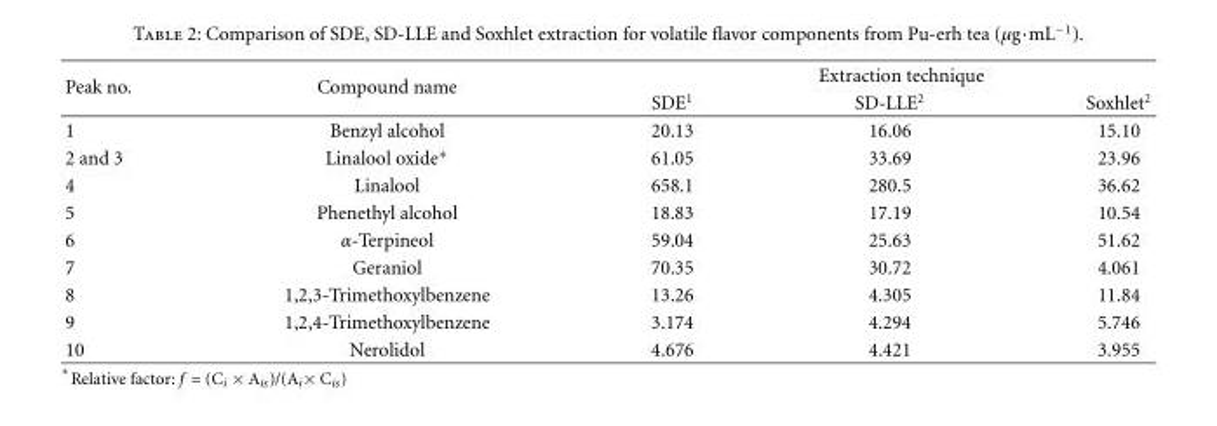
<table><thead><tr><td rowspan="2">Peak no.</td><td rowspan="2">Compound name</td><td colspan="3">Extraction technique</td></tr><tr><td>SDE<sup>1</sup></td><td>SD-LLE<sup>2</sup></td><td>Soxhlet<sup>2</sup></td></tr></thead><tbody><tr><td>1</td><td>Benzyl alcohol</td><td>20.13</td><td>16.06</td><td>15.10</td></tr><tr><td>2 and 3</td><td>Linalool oxide∗</td><td>61.05</td><td>33.69</td><td>23.96</td></tr><tr><td>4</td><td>Linalool</td><td>658.1</td><td>280.5</td><td>36.62</td></tr><tr><td>5</td><td>Phenethyl alcohol</td><td>18.83</td><td>17.19</td><td>10.54</td></tr><tr><td>6</td><td>α-Terpineol</td><td>59.04</td><td>25.63</td><td>51.62</td></tr><tr><td>7</td><td>Geraniol</td><td>70.35</td><td>30.72</td><td>4.061</td></tr><tr><td>8</td><td>1,2,3-Trimethoxylbenzene</td><td>13.26</td><td>4.305</td><td>11.84</td></tr><tr><td>9</td><td>1,2,4-Trimethoxylbenzene</td><td>3.174</td><td>4.294</td><td>5.746</td></tr><tr><td>10</td><td>Nerolidol</td><td>4.676</td><td>4.421</td><td>3.955</td></tr></tbody></table>